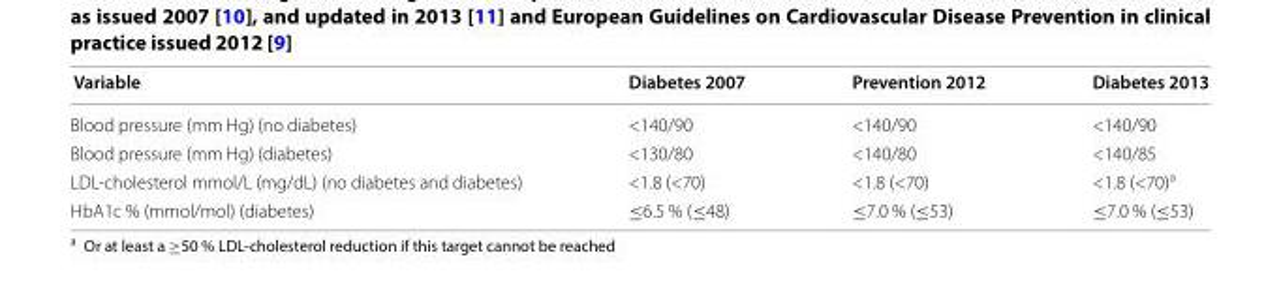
<table><thead><tr><td>Variable</td><td>Diabetes 2007</td><td>Prevention 2012</td><td>Diabetes 2013</td></tr></thead><tbody><tr><td>Blood pressure (mm Hg) (no diabetes)</td><td>&lt;140/90</td><td>&lt;140/90</td><td>&lt;140/90</td></tr><tr><td>Blood pressure (mm Hg) (diabetes)</td><td>&lt;130/80</td><td>&lt;140/80</td><td>&lt;140/85</td></tr><tr><td>LDL-cholesterol mmol/L (mg/dL) (no diabetes and diabetes)</td><td>&lt;1.8 (&lt;70)</td><td>&lt;1.8 (&lt;70)</td><td>&lt;1.8 (&lt;70)<sup>a</sup></td></tr><tr><td>HbA1c % (mmol/mol) (diabetes)</td><td>≤6.5 % (≤48)</td><td>≤7.0 % (≤53)</td><td>≤7.0 % (≤53)</td></tr></tbody></table>